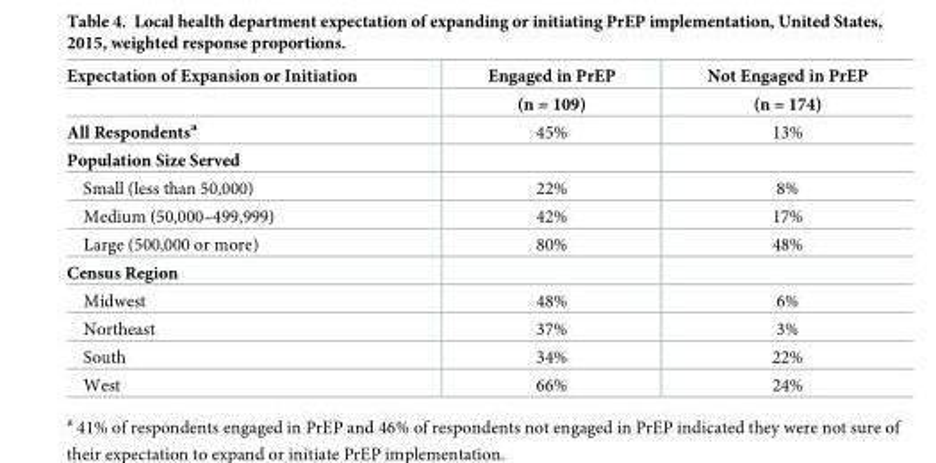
<table><thead><tr><td rowspan="2">Expectation of Expansion or Initiation</td><td rowspan="2">Engaged in PrEP (n = 109)</td><td rowspan="2">Not Engaged in PrEP (n = 174)</td></tr><tr></tr></thead><tbody><tr><td>All Respondents<sup>a</sup></td><td>45%</td><td>13%</td></tr><tr><td colspan="3">Population Size Served</td></tr><tr><td>Small (less than 50,000)</td><td>22%</td><td>8%</td></tr><tr><td>Medium (50,000–499,999)</td><td>42%</td><td>17%</td></tr><tr><td>Large (500,000 or more)</td><td>80%</td><td>48%</td></tr><tr><td colspan="3">Census Region</td></tr><tr><td>Midwest</td><td>48%</td><td>6%</td></tr><tr><td>Northeast</td><td>37%</td><td>3%</td></tr><tr><td>South</td><td>34%</td><td>22%</td></tr><tr><td>West</td><td>66%</td><td>24%</td></tr></tbody></table>